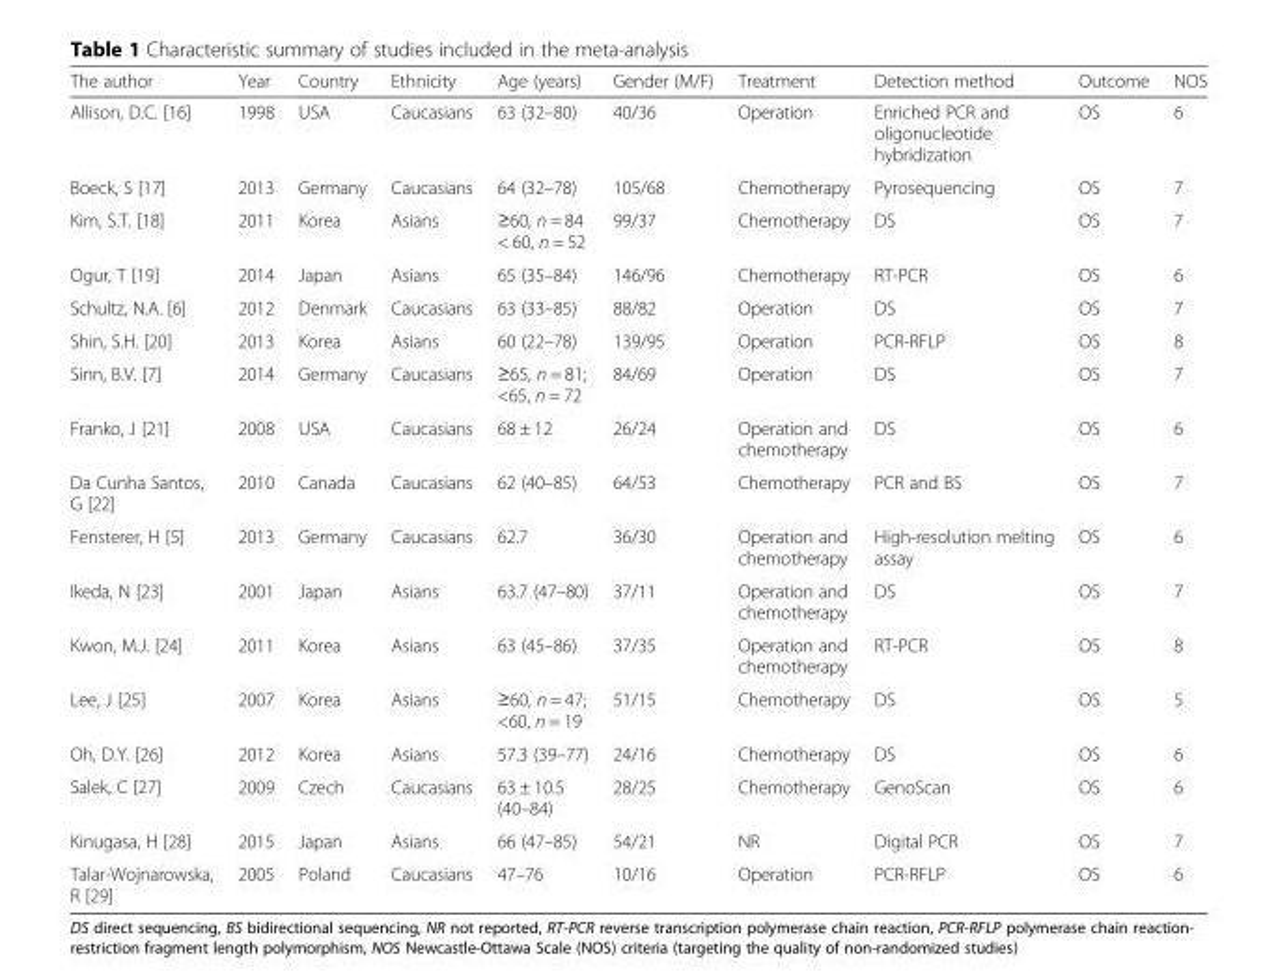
<table><thead><tr><td>The author</td><td>Year</td><td>Country</td><td>Ethnicity</td><td>Age (years)</td><td>Gender (M/F)</td><td>Treatment</td><td>Detection method</td><td>Outcome</td><td>NOS</td></tr></thead><tbody><tr><td>Allison, D.C. [16]</td><td>1998</td><td>USA</td><td>Caucasians</td><td>63 (32–80)</td><td>40/36</td><td>Operation</td><td>Enriched PCR and oligonucleotide hybridization</td><td>OS</td><td>6</td></tr><tr><td>Boeck, S [17]</td><td>2013</td><td>Germany</td><td>Caucasians</td><td>64 (32–78)</td><td>105/68</td><td>Chemotherapy</td><td>Pyrosequencing</td><td>OS</td><td>7</td></tr><tr><td>Kim, S.T. [18]</td><td>2011</td><td>Korea</td><td>Asians</td><td>≥60, n = 84 &lt; 60, n = 52</td><td>99/37</td><td>Chemotherapy</td><td>DS</td><td>OS</td><td>7</td></tr><tr><td>Ogur, T [19]</td><td>2014</td><td>Japan</td><td>Asians</td><td>65 (35–84)</td><td>146/96</td><td>Chemotherapy</td><td>RT-PCR</td><td>OS</td><td>6</td></tr><tr><td>Schultz, N.A. [6]</td><td>2012</td><td>Denmark</td><td>Caucasians</td><td>63 (33–85)</td><td>88/82</td><td>Operation</td><td>DS</td><td>OS</td><td>7</td></tr><tr><td>Shin, S.H. [20]</td><td>2013</td><td>Korea</td><td>Asians</td><td>60 (22–78)</td><td>139/95</td><td>Operation</td><td>PCR-RFLP</td><td>OS</td><td>8</td></tr><tr><td>Sinn, B.V. [7]</td><td>2014</td><td>Germany</td><td>Caucasians</td><td>≥65, n = 81; &lt;65, n = 72</td><td>84/69</td><td>Operation</td><td>DS</td><td>OS</td><td>7</td></tr><tr><td>Franko, J [21]</td><td>2008</td><td>USA</td><td>Caucasians</td><td>68 ± 12</td><td>26/24</td><td>Operation and chemotherapy</td><td>DS</td><td>OS</td><td>6</td></tr><tr><td>Da Cunha Santos, G [22]</td><td>2010</td><td>Canada</td><td>Caucasians</td><td>62 (40–85)</td><td>64/53</td><td>Chemotherapy</td><td>PCR and BS</td><td>OS</td><td>7</td></tr><tr><td>Fensterer, H [5]</td><td>2013</td><td>Germany</td><td>Caucasians</td><td>62.7</td><td>36/30</td><td>Operation and chemotherapy</td><td>High-resolution melting assay</td><td>OS</td><td>6</td></tr><tr><td>lkeda, N [23]</td><td>2001</td><td>Japan</td><td>Asians</td><td>63.7 (47–80)</td><td>37/11</td><td>Operation and chemotherapy</td><td>DS</td><td>OS</td><td>7</td></tr><tr><td>Kwon, M.J. [24]</td><td>2011</td><td>Korea</td><td>Asians</td><td>63 (45–86)</td><td>37/35</td><td>Operation and chemotherapy</td><td>RT-PCR</td><td>OS</td><td>8</td></tr><tr><td>Lee, J [25]</td><td>2007</td><td>Korea</td><td>Asians</td><td>≥60, n = 47; &lt;60, n = 19</td><td>51/15</td><td>Chemotherapy</td><td>DS</td><td>OS</td><td>5</td></tr><tr><td>Oh, D.Y. [26]</td><td>2012</td><td>Korea</td><td>Asians</td><td>57.3 (39–77)</td><td>24/16</td><td>Chemotherapy</td><td>DS</td><td>OS</td><td>6</td></tr><tr><td>Salek, C [27]</td><td>2009</td><td>Czech</td><td>Caucasians</td><td>63 ± 10.5 (40–84)</td><td>28/25</td><td>Chemotherapy</td><td>GenoScan</td><td>OS</td><td>6</td></tr><tr><td>Kinugasa, H [28]</td><td>2015</td><td>Japan</td><td>Asians</td><td>66 (47–85)</td><td>54/21</td><td>NR</td><td>Digital PCR</td><td>OS</td><td>7</td></tr><tr><td>Talar-Wojnarowska, R [29]</td><td>2005</td><td>Poland</td><td>Caucasians</td><td>47–76</td><td>10/16</td><td>Operation</td><td>PCR-RFLP</td><td>OS</td><td>6</td></tr></tbody></table>